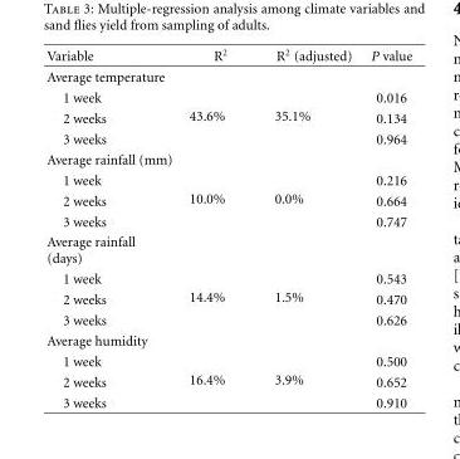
<table><thead><tr><td>Variable</td><td>R<sup>2</sup></td><td>R<sup>2</sup> (adjusted)</td><td>P value</td></tr></thead><tbody><tr><td colspan="4">Average temperature</td></tr><tr><td>1 week</td><td rowspan="3">43.6%</td><td rowspan="3">35.1%</td><td>0.016</td></tr><tr><td>2 weeks</td><td>0.134</td></tr><tr><td>3 weeks</td><td>0.964</td></tr><tr><td colspan="4">Average rainfall (mm)</td></tr><tr><td>1 week</td><td rowspan="3">10.0%</td><td rowspan="3">0.0%</td><td>0.216</td></tr><tr><td>2 weeks</td><td>0.664</td></tr><tr><td>3 weeks</td><td>0.747</td></tr><tr><td colspan="4">Average rainfall (days)</td></tr><tr><td>1 week</td><td rowspan="3">14.4%</td><td rowspan="3">1.5%</td><td>0.543</td></tr><tr><td>2 weeks</td><td>0.470</td></tr><tr><td>3 weeks</td><td>0.626</td></tr><tr><td colspan="4">Average humidity</td></tr><tr><td>1 week</td><td rowspan="3">16.4%</td><td rowspan="3">3.9%</td><td>0.500</td></tr><tr><td>2 weeks</td><td>0.652</td></tr><tr><td>3 weeks</td><td>0.910</td></tr></tbody></table>